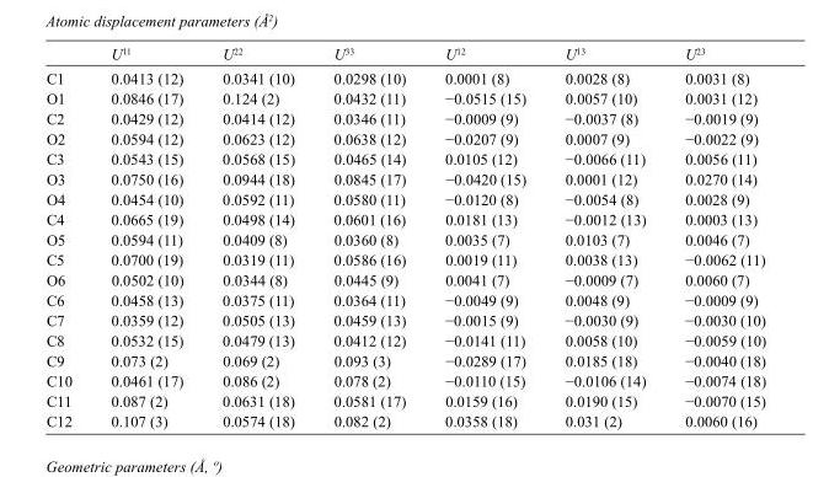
<table><thead><tr><td></td><td>U<sup>11</sup></td><td>U<sup>22</sup></td><td>U<sup>33</sup></td><td>U<sup>12</sup></td><td>U<sup>13</sup></td><td>U<sup>23</sup></td></tr></thead><tbody><tr><td>C1</td><td>0.0413 (12)</td><td>0.0341 (10)</td><td>0.0298 (10)</td><td>0.0001 (8)</td><td>0.0028 (8)</td><td>0.0031 (8)</td></tr><tr><td>O1</td><td>0.0846 (17)</td><td>0.124 (2)</td><td>0.0432 (11)</td><td>−0.0515 (15)</td><td>0.0057 (10)</td><td>0.0031 (12)</td></tr><tr><td>C2</td><td>0.0429 (12)</td><td>0.0414 (12)</td><td>0.0346 (11)</td><td>−0.0009 (9)</td><td>−0.0037 (8)</td><td>−0.0019 (9)</td></tr><tr><td>O2</td><td>0.0594 (12)</td><td>0.0623 (12)</td><td>0.0638 (12)</td><td>−0.0207 (9)</td><td>0.0007 (9)</td><td>−0.0022 (9)</td></tr><tr><td>C3</td><td>0.0543 (15)</td><td>0.0568 (15)</td><td>0.0465 (14)</td><td>0.0105 (12)</td><td>−0.0066 (11)</td><td>0.0056 (11)</td></tr><tr><td>O3</td><td>0.0750 (16)</td><td>0.0944 (18)</td><td>0.0845 (17)</td><td>−0.0420 (15)</td><td>0.0001 (12)</td><td>0.0270 (14)</td></tr><tr><td>O4</td><td>0.0454 (10)</td><td>0.0592 (11)</td><td>0.0580 (11)</td><td>−0.0120 (8)</td><td>−0.0054 (8)</td><td>0.0028 (9)</td></tr><tr><td>C4</td><td>0.0665 (19)</td><td>0.0498 (14)</td><td>0.0601 (16)</td><td>0.0181 (13)</td><td>−0.0012 (13)</td><td>0.0003 (13)</td></tr><tr><td>O5</td><td>0.0594 (11)</td><td>0.0409 (8)</td><td>0.0360 (8)</td><td>0.0035 (7)</td><td>0.0103 (7)</td><td>0.0046 (7)</td></tr><tr><td>C5</td><td>0.0700 (19)</td><td>0.0319 (11)</td><td>0.0586 (16)</td><td>0.0019 (11)</td><td>0.0038 (13)</td><td>−0.0062 (11)</td></tr><tr><td>O6</td><td>0.0502 (10)</td><td>0.0344 (8)</td><td>0.0445 (9)</td><td>0.0041 (7)</td><td>−0.0009 (7)</td><td>0.0060 (7)</td></tr><tr><td>C6</td><td>0.0458 (13)</td><td>0.0375 (11)</td><td>0.0364 (11)</td><td>−0.0049 (9)</td><td>0.0048 (9)</td><td>−0.0009 (9)</td></tr><tr><td>C7</td><td>0.0359 (12)</td><td>0.0505 (13)</td><td>0.0459 (13)</td><td>−0.0015 (9)</td><td>−0.0030 (9)</td><td>−0.0030 (10)</td></tr><tr><td>C8</td><td>0.0532 (15)</td><td>0.0479 (13)</td><td>0.0412 (12)</td><td>−0.0141 (11)</td><td>0.0058 (10)</td><td>−0.0059 (10)</td></tr><tr><td>C9</td><td>0.073 (2)</td><td>0.069 (2)</td><td>0.093 (3)</td><td>−0.0289 (17)</td><td>0.0185 (18)</td><td>−0.0040 (18)</td></tr><tr><td>C10</td><td>0.0461 (17)</td><td>0.086 (2)</td><td>0.078 (2)</td><td>−0.0110 (15)</td><td>−0.0106 (14)</td><td>−0.0074 (18)</td></tr><tr><td>C11</td><td>0.087 (2)</td><td>0.0631 (18)</td><td>0.0581 (17)</td><td>0.0159 (16)</td><td>0.0190 (15)</td><td>−0.0070 (15)</td></tr><tr><td>C12</td><td>0.107 (3)</td><td>0.0574 (18)</td><td>0.082 (2)</td><td>0.0358 (18)</td><td>0.031 (2)</td><td>0.0060 (16)</td></tr></tbody></table>